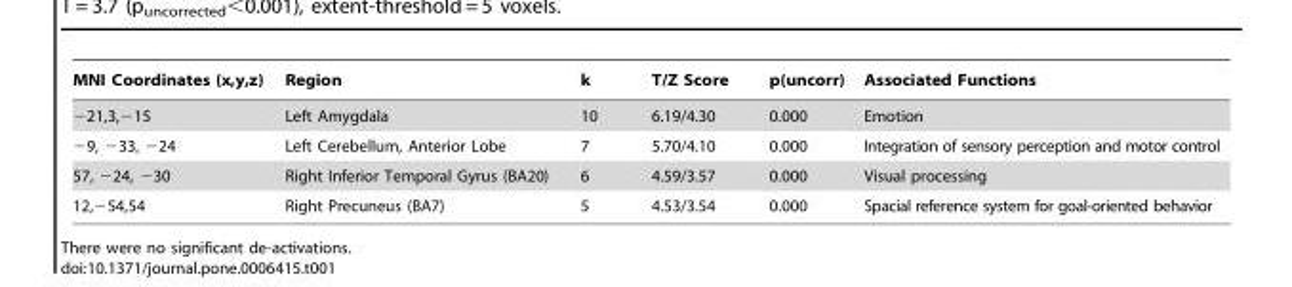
<table><thead><tr><td>MNI Coordinates (x,y,z)</td><td>Region</td><td>k</td><td>T/Z Score</td><td>p(uncorr)</td><td>Associated Functions</td></tr></thead><tbody><tr><td>−21,3,−15</td><td>Left Amygdala</td><td>10</td><td>6.19/4.30</td><td>0.000</td><td>Emotion</td></tr><tr><td>−9, −33, −24</td><td>Left Cerebellum, Anterior Lobe</td><td>7</td><td>5.70/4.10</td><td>0.000</td><td>Integration of sensory perception and motor control</td></tr><tr><td>57, −24, −30</td><td>Right Inferior Temporal Gyrus (BA20)</td><td>6</td><td>4.59/3.57</td><td>0.000</td><td>Visual processing</td></tr><tr><td>12,−54,54</td><td>Right Precuneus (BA7)</td><td>5</td><td>4.53/3.54</td><td>0.000</td><td>Spacial reference system for goal-oriented behavior</td></tr></tbody></table>